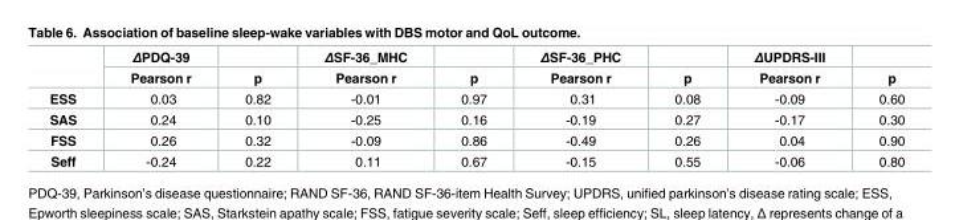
<table><thead><tr><td rowspan="2"></td><td rowspan="2">ΔPDQ-39 Pearson r</td><td rowspan="2">p</td><td rowspan="2">ΔSF-36_MHC Pearson r</td><td rowspan="2">p</td><td rowspan="2">ΔSF-36_PHC Pearson r</td><td rowspan="2">p</td><td rowspan="2">ΔUPDRS-III Pearson r</td><td rowspan="2">p</td></tr><tr></tr></thead><tbody><tr><td>ESS</td><td>0.03</td><td>0.82</td><td>-0.01</td><td>0.97</td><td>0.31</td><td>0.08</td><td>-0.09</td><td>0.60</td></tr><tr><td>SAS</td><td>0.24</td><td>0.10</td><td>-0.25</td><td>0.16</td><td>-0.19</td><td>0.27</td><td>-0.17</td><td>0.30</td></tr><tr><td>FSS</td><td>0.26</td><td>0.32</td><td>-0.09</td><td>0.86</td><td>-0.49</td><td>0.26</td><td>0.04</td><td>0.90</td></tr><tr><td>Seff</td><td>-0.24</td><td>0.22</td><td>0.11</td><td>0.67</td><td>-0.15</td><td>0.55</td><td>-0.06</td><td>0.80</td></tr></tbody></table>